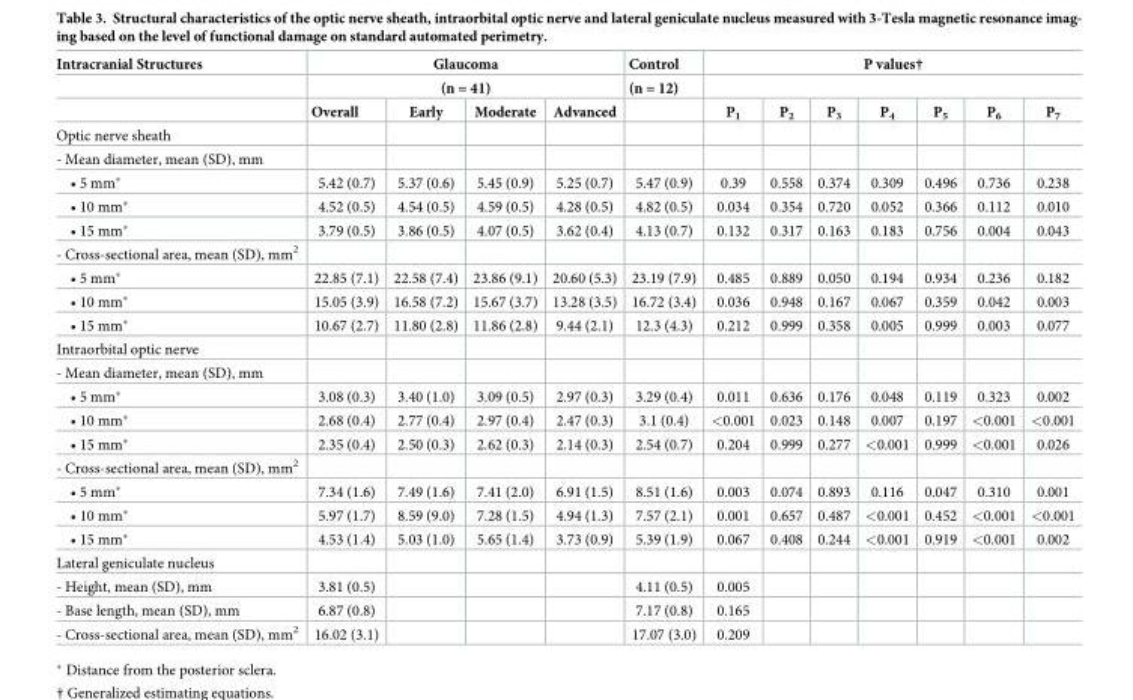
<table><thead><tr><td rowspan="3">Intracranial Structures</td><td rowspan="2" colspan="4">Glaucoma (n = 41)</td><td rowspan="3">Control (n = 12)</td><td colspan="7">P values†</td></tr><tr><td rowspan="2">P<sub>1</sub></td><td rowspan="2">P<sub>2</sub></td><td rowspan="2">P<sub>3</sub></td><td rowspan="2">P<sub>4</sub></td><td rowspan="2">P<sub>5</sub></td><td rowspan="2">P<sub>6</sub></td><td rowspan="2">P<sub>7</sub></td></tr><tr><td>Overall</td><td>Early</td><td>Moderate</td><td>Advanced</td></tr></thead><tbody><tr><td colspan="13">Optic nerve sheath</td></tr><tr><td colspan="13">- Mean diameter, mean (SD), mm</td></tr><tr><td>• 5 mm*</td><td>5.42 (0.7)</td><td>5.37 (0.6)</td><td>5.45 (0.9)</td><td>5.25 (0.7)</td><td>5.47 (0.9)</td><td>0.39</td><td>0.558</td><td>0.374</td><td>0.309</td><td>0.496</td><td>0.736</td><td>0.238</td></tr><tr><td>• 10 mm*</td><td>4.52 (0.5)</td><td>4.54 (0.5)</td><td>4.59 (0.5)</td><td>4.28 (0.5)</td><td>4.82 (0.5)</td><td>0.034</td><td>0.354</td><td>0.720</td><td>0.052</td><td>0.366</td><td>0.112</td><td>0.010</td></tr><tr><td>• 15 mm*</td><td>3.79 (0.5)</td><td>3.86 (0.5)</td><td>4.07 (0.5)</td><td>3.62 (0.4)</td><td>4.13 (0.7)</td><td>0.132</td><td>0.317</td><td>0.163</td><td>0.183</td><td>0.756</td><td>0.004</td><td>0.043</td></tr><tr><td colspan="13">- Cross-sectional area, mean (SD), mm<sup>2</sup></td></tr><tr><td>• 5 mm*</td><td>22.85 (7.1)</td><td>22.58 (7.4)</td><td>23.86 (9.1)</td><td>20.60 (5.3)</td><td>23.19 (7.9)</td><td>0.485</td><td>0.889</td><td>0.050</td><td>0.194</td><td>0.934</td><td>0.236</td><td>0.182</td></tr><tr><td>• 10 mm*</td><td>15.05 (3.9)</td><td>16.58 (7.2)</td><td>15.67 (3.7)</td><td>13.28 (3.5)</td><td>16.72 (3.4)</td><td>0.036</td><td>0.948</td><td>0.167</td><td>0.067</td><td>0.359</td><td>0.042</td><td>0.003</td></tr><tr><td>• 15 mm*</td><td>10.67 (2.7)</td><td>11.80 (2.8)</td><td>11.86 (2.8)</td><td>9.44 (2.1)</td><td>12.3 (4.3)</td><td>0.212</td><td>0.999</td><td>0.358</td><td>0.005</td><td>0.999</td><td>0.003</td><td>0.077</td></tr><tr><td colspan="13">Intraorbital optic nerve</td></tr><tr><td colspan="13">- Mean diameter, mean (SD), mm</td></tr><tr><td>• 5 mm*</td><td>3.08 (0.3)</td><td>3.40 (1.0)</td><td>3.09 (0.5)</td><td>2.97 (0.3)</td><td>3.29 (0.4)</td><td>0.011</td><td>0.636</td><td>0.176</td><td>0.048</td><td>0.119</td><td>0.323</td><td>0.002</td></tr><tr><td>• 10 mm*</td><td>2.68 (0.4)</td><td>2.77 (0.4)</td><td>2.97 (0.4)</td><td>2.47 (0.3)</td><td>3.1 (0.4)</td><td>&lt;0.001</td><td>0.023</td><td>0.148</td><td>0.007</td><td>0.197</td><td>&lt;0.001</td><td>&lt;0.001</td></tr><tr><td>• 15 mm*</td><td>2.35 (0.4)</td><td>2.50 (0.3)</td><td>2.62 (0.3)</td><td>2.14 (0.3)</td><td>2.54 (0.7)</td><td>0.204</td><td>0.999</td><td>0.277</td><td>&lt;0.001</td><td>0.999</td><td>&lt;0.001</td><td>0.026</td></tr><tr><td colspan="13">- Cross-sectional area, mean (SD), mm<sup>2</sup></td></tr><tr><td>• 5 mm*</td><td>7.34 (1.6)</td><td>7.49 (1.6)</td><td>7.41 (2.0)</td><td>6.91 (1.5)</td><td>8.51 (1.6)</td><td>0.003</td><td>0.074</td><td>0.893</td><td>0.116</td><td>0.047</td><td>0.310</td><td>0.001</td></tr><tr><td>• 10 mm*</td><td>5.97 (1.7)</td><td>8.59 (9.0)</td><td>7.28 (1.5)</td><td>4.94 (1.3)</td><td>7.57 (2.1)</td><td>0.001</td><td>0.657</td><td>0.487</td><td>&lt;0.001</td><td>0.452</td><td>&lt;0.001</td><td>&lt;0.001</td></tr><tr><td>• 15 mm*</td><td>4.53 (1.4)</td><td>5.03 (1.0)</td><td>5.65 (1.4)</td><td>3.73 (0.9)</td><td>5.39 (1.9)</td><td>0.067</td><td>0.408</td><td>0.244</td><td>&lt;0.001</td><td>0.919</td><td>&lt;0.001</td><td>0.002</td></tr><tr><td colspan="13">Lateral geniculate nucleus</td></tr><tr><td>- Height, mean (SD), mm</td><td>3.81 (0.5)</td><td></td><td></td><td></td><td>4.11 (0.5)</td><td>0.005</td><td></td><td></td><td></td><td></td><td></td><td></td></tr><tr><td>- Base length, mean (SD), mm</td><td>6.87 (0.8)</td><td></td><td></td><td></td><td>7.17 (0.8)</td><td>0.165</td><td></td><td></td><td></td><td></td><td></td><td></td></tr><tr><td>- Cross-sectional area, mean (SD), mm<sup>2</sup></td><td>16.02 (3.1)</td><td></td><td></td><td></td><td>17.07 (3.0)</td><td>0.209</td><td></td><td></td><td></td><td></td><td></td><td></td></tr></tbody></table>